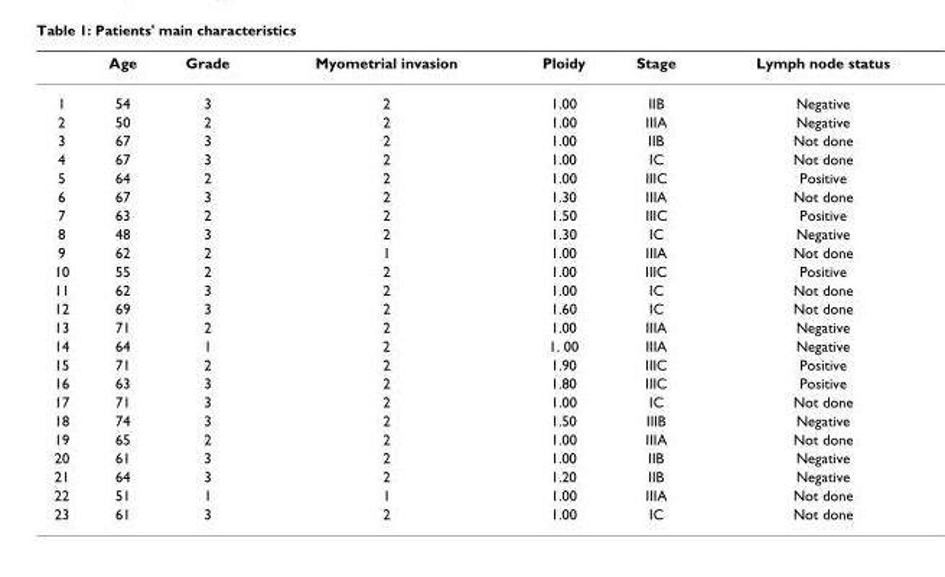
<table><thead><tr><td></td><td>Age</td><td>Grade</td><td>Myometrial invasion</td><td>Ploidy</td><td>Stage</td><td>Lymph node status</td></tr></thead><tbody><tr><td>1</td><td>54</td><td>3</td><td>2</td><td>1.00</td><td>IIB</td><td>Negative</td></tr><tr><td>2</td><td>50</td><td>2</td><td>2</td><td>1.00</td><td>IIIA</td><td>Negative</td></tr><tr><td>3</td><td>67</td><td>3</td><td>2</td><td>1.00</td><td>IIB</td><td>Not done</td></tr><tr><td>4</td><td>67</td><td>3</td><td>2</td><td>1.00</td><td>IC</td><td>Not done</td></tr><tr><td>5</td><td>64</td><td>2</td><td>2</td><td>1.00</td><td>IIIC</td><td>Positive</td></tr><tr><td>6</td><td>67</td><td>3</td><td>2</td><td>1.30</td><td>IIIA</td><td>Not done</td></tr><tr><td>7</td><td>63</td><td>2</td><td>2</td><td>1.50</td><td>IIIC</td><td>Positive</td></tr><tr><td>8</td><td>48</td><td>3</td><td>2</td><td>1.30</td><td>IC</td><td>Negative</td></tr><tr><td>9</td><td>62</td><td>2</td><td>1</td><td>1.00</td><td>IIIA</td><td>Not done</td></tr><tr><td>10</td><td>55</td><td>2</td><td>2</td><td>1.00</td><td>IIIC</td><td>Positive</td></tr><tr><td>11</td><td>62</td><td>3</td><td>2</td><td>1.00</td><td>IC</td><td>Not done</td></tr><tr><td>12</td><td>69</td><td>3</td><td>2</td><td>1.60</td><td>IC</td><td>Not done</td></tr><tr><td>13</td><td>71</td><td>2</td><td>2</td><td>1.00</td><td>IIIA</td><td>Negative</td></tr><tr><td>14</td><td>64</td><td>1</td><td>2</td><td>1. 00</td><td>IIIA</td><td>Negative</td></tr><tr><td>15</td><td>71</td><td>2</td><td>2</td><td>1.90</td><td>IIIC</td><td>Positive</td></tr><tr><td>16</td><td>63</td><td>3</td><td>2</td><td>1.80</td><td>IIIC</td><td>Positive</td></tr><tr><td>17</td><td>71</td><td>3</td><td>2</td><td>1.00</td><td>IC</td><td>Not done</td></tr><tr><td>18</td><td>74</td><td>3</td><td>2</td><td>1.50</td><td>IIIB</td><td>Negative</td></tr><tr><td>19</td><td>65</td><td>2</td><td>2</td><td>1.00</td><td>IIIA</td><td>Not done</td></tr><tr><td>20</td><td>61</td><td>3</td><td>2</td><td>1.00</td><td>IIB</td><td>Negative</td></tr><tr><td>21</td><td>64</td><td>3</td><td>2</td><td>1.20</td><td>IIB</td><td>Negative</td></tr><tr><td>22</td><td>51</td><td>1</td><td>1</td><td>1.00</td><td>IIIA</td><td>Not done</td></tr><tr><td>23</td><td>61</td><td>3</td><td>2</td><td>1.00</td><td>IC</td><td>Not done</td></tr></tbody></table>